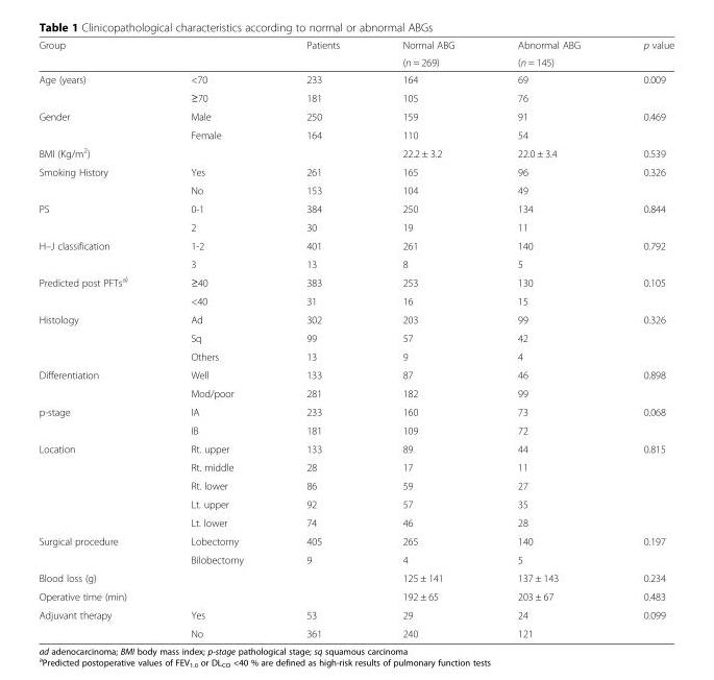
<table><thead><tr><td rowspan="2">Group</td><td rowspan="2"></td><td rowspan="2">Patients</td><td rowspan="2">Normal ABG (n = 269)</td><td rowspan="2">Abnormal ABG (n = 145)</td><td rowspan="2">p value</td></tr><tr></tr></thead><tbody><tr><td rowspan="2">Age (years)</td><td>&lt;70</td><td>233</td><td>164</td><td>69</td><td>0.009</td></tr><tr><td>≥70</td><td>181</td><td>105</td><td>76</td><td></td></tr><tr><td rowspan="2">Gender</td><td>Male</td><td>250</td><td>159</td><td>91</td><td>0.469</td></tr><tr><td>Female</td><td>164</td><td>110</td><td>54</td><td></td></tr><tr><td>BMI (Kg/m<sup>2</sup>)</td><td></td><td></td><td>22.2 ± 3.2</td><td>22.0 ± 3.4</td><td>0.539</td></tr><tr><td rowspan="2">Smoking History</td><td>Yes</td><td>261</td><td>165</td><td>96</td><td>0.326</td></tr><tr><td>No</td><td>153</td><td>104</td><td>49</td><td></td></tr><tr><td rowspan="2">PS</td><td>0-1</td><td>384</td><td>250</td><td>134</td><td>0.844</td></tr><tr><td>2</td><td>30</td><td>19</td><td>11</td><td></td></tr><tr><td rowspan="2">H–J classification</td><td>1-2</td><td>401</td><td>261</td><td>140</td><td>0.792</td></tr><tr><td>3</td><td>13</td><td>8</td><td>5</td><td></td></tr><tr><td rowspan="2">Predicted post PFTs<sup>a)</sup></td><td>≥40</td><td>383</td><td>253</td><td>130</td><td>0.105</td></tr><tr><td>&lt;40</td><td>31</td><td>16</td><td>15</td><td></td></tr><tr><td rowspan="3">Histology</td><td>Ad</td><td>302</td><td>203</td><td>99</td><td>0.326</td></tr><tr><td>Sq</td><td>99</td><td>57</td><td>42</td><td></td></tr><tr><td>Others</td><td>13</td><td>9</td><td>4</td><td></td></tr><tr><td rowspan="2">Differentiation</td><td>Well</td><td>133</td><td>87</td><td>46</td><td>0.898</td></tr><tr><td>Mod/poor</td><td>281</td><td>182</td><td>99</td><td></td></tr><tr><td rowspan="2">p-stage</td><td>IA</td><td>233</td><td>160</td><td>73</td><td>0.068</td></tr><tr><td>IB</td><td>181</td><td>109</td><td>72</td><td></td></tr><tr><td rowspan="5">Location</td><td>Rt. upper</td><td>133</td><td>89</td><td>44</td><td>0.815</td></tr><tr><td>Rt. middle</td><td>28</td><td>17</td><td>11</td><td></td></tr><tr><td>Rt. lower</td><td>86</td><td>59</td><td>27</td><td></td></tr><tr><td>Lt. upper</td><td>92</td><td>57</td><td>35</td><td></td></tr><tr><td>Lt. lower</td><td>74</td><td>46</td><td>28</td><td></td></tr><tr><td rowspan="2">Surgical procedure</td><td>Lobectomy</td><td>405</td><td>265</td><td>140</td><td>0.197</td></tr><tr><td>Bilobectomy</td><td>9</td><td>4</td><td>5</td><td></td></tr><tr><td>Blood loss (g)</td><td></td><td></td><td>125 ± 141</td><td>137 ± 143</td><td>0.234</td></tr><tr><td>Operative time (min)</td><td></td><td></td><td>192 ± 65</td><td>203 ± 67</td><td>0.483</td></tr><tr><td rowspan="2">Adjuvant therapy</td><td>Yes</td><td>53</td><td>29</td><td>24</td><td>0.099</td></tr><tr><td>No</td><td>361</td><td>240</td><td>121</td><td></td></tr></tbody></table>